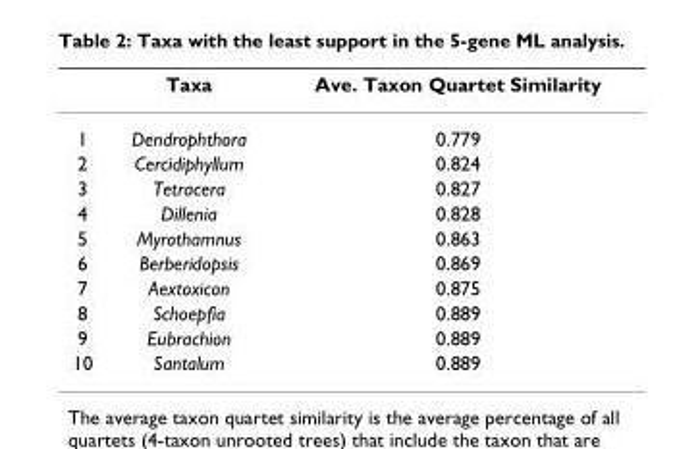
<table><thead><tr><td></td><td>Taxa</td><td>Ave. Taxon Quartet Similarity</td></tr></thead><tbody><tr><td>1</td><td>Dendrophthora</td><td>0.779</td></tr><tr><td>2</td><td>Cercidiphyllum</td><td>0.824</td></tr><tr><td>3</td><td>Tetracera</td><td>0.827</td></tr><tr><td>4</td><td>Dillenia</td><td>0.828</td></tr><tr><td>5</td><td>Myrothamnus</td><td>0.863</td></tr><tr><td>6</td><td>Berberidopsis</td><td>0.869</td></tr><tr><td>7</td><td>Aextoxicon</td><td>0.875</td></tr><tr><td>8</td><td>Schoepfia</td><td>0.889</td></tr><tr><td>9</td><td>Eubrachion</td><td>0.889</td></tr><tr><td>10</td><td>Santalum</td><td>0.889</td></tr></tbody></table>